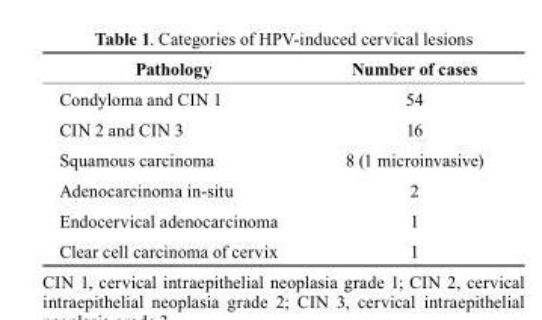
<table><thead><tr><td>Pathology</td><td>Number of cases</td></tr></thead><tbody><tr><td>Condyloma and CIN 1</td><td>54</td></tr><tr><td>CIN 2 and CIN 3</td><td>16</td></tr><tr><td>Squamous carcinoma</td><td>8 (1 microinvasive)</td></tr><tr><td>Adenocarcinoma in-situ</td><td>2</td></tr><tr><td>Endocervical adenocarcinoma</td><td>1</td></tr><tr><td>Clear cell carcinoma of cervix</td><td>1</td></tr></tbody></table>